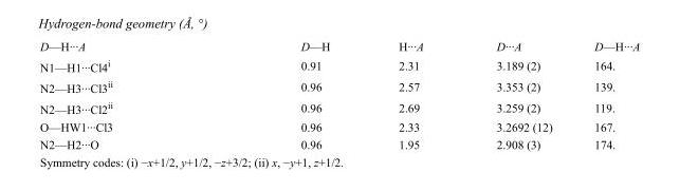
<table><tbody><tr><td>D—H···A</td><td>D—H</td><td>H···A</td><td>D···A</td><td>D—H···A</td></tr><tr><td>N1—H1···Cl4<sup>i</sup></td><td>0.91</td><td>2.31</td><td>3.189 (2)</td><td>164.</td></tr><tr><td>N2—H3···Cl3<sup>ii</sup></td><td>0.96</td><td>2.57</td><td>3.353 (2)</td><td>139.</td></tr><tr><td>N2—H3···Cl2<sup>ii</sup></td><td>0.96</td><td>2.69</td><td>3.259 (2)</td><td>119.</td></tr><tr><td>O—HW1···Cl3</td><td>0.96</td><td>2.33</td><td>3.2692 (12)</td><td>167.</td></tr><tr><td>N2—H2···O</td><td>0.96</td><td>1.95</td><td>2.908 (3)</td><td>174.</td></tr></tbody></table>